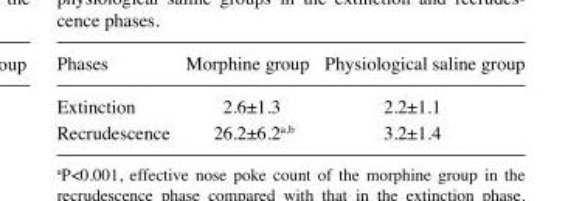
<table><thead><tr><td>Phases</td><td>Morphine group</td><td>Physiological saline group</td></tr></thead><tbody><tr><td>Extinction</td><td>2.6±1.3</td><td>2.2±1.1</td></tr><tr><td>Recrudescence</td><td>26.2±6.2<sup>a,b</sup></td><td>3.2±1.4</td></tr></tbody></table>